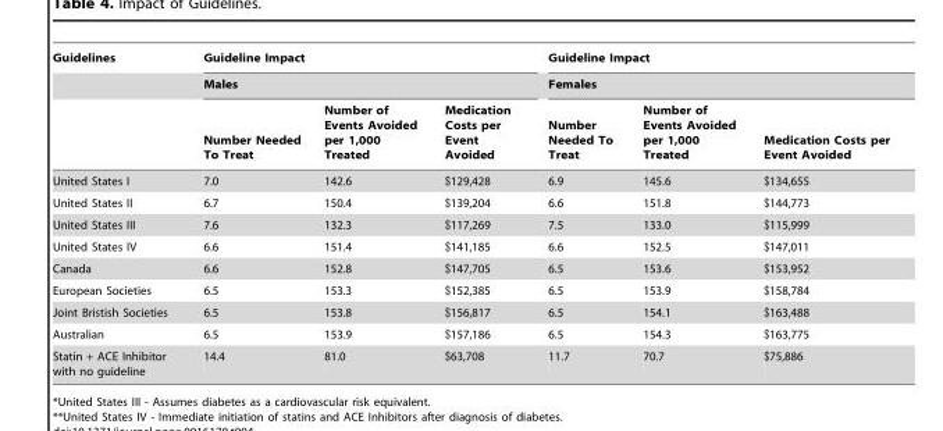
<table><thead><tr><td rowspan="3">Guidelines</td><td rowspan="2" colspan="3">Guideline Impact Males</td><td rowspan="2" colspan="3">Guideline Impact Females</td></tr><tr></tr><tr><td>Number Needed To Treat</td><td>Number of Events Avoided per 1,000 Treated</td><td>Medication Costs per Event Avoided</td><td>Number Needed To Treat</td><td>Number of Events Avoided per 1,000 Treated</td><td>Medication Costs per Event Avoided</td></tr></thead><tbody><tr><td>United States I</td><td>7.0</td><td>142.6</td><td>$129,428</td><td>6.9</td><td>145.6</td><td>$134,655</td></tr><tr><td>United States II</td><td>6.7</td><td>150.4</td><td>$139,204</td><td>6.6</td><td>151.8</td><td>$144,773</td></tr><tr><td>United States III</td><td>7.6</td><td>132.3</td><td>$117,269</td><td>7.5</td><td>133.0</td><td>$115,999</td></tr><tr><td>United States IV</td><td>6.6</td><td>151.4</td><td>$141,185</td><td>6.6</td><td>152.5</td><td>$147,011</td></tr><tr><td>Canada</td><td>6.6</td><td>152.8</td><td>$147,705</td><td>6.5</td><td>153.6</td><td>$153,952</td></tr><tr><td>European Societies</td><td>6.5</td><td>153.3</td><td>$152,385</td><td>6.5</td><td>153.9</td><td>$158,784</td></tr><tr><td>Joint Bristish Societies</td><td>6.5</td><td>153.8</td><td>$156,817</td><td>6.5</td><td>154.1</td><td>$163,488</td></tr><tr><td>Australian</td><td>6.5</td><td>153.9</td><td>$157,186</td><td>6.5</td><td>154.3</td><td>$163,775</td></tr><tr><td>Statin + ACE Inhibitor with no guideline</td><td>14.4</td><td>81.0</td><td>$63,708</td><td>11.7</td><td>70.7</td><td>$75,886</td></tr></tbody></table>